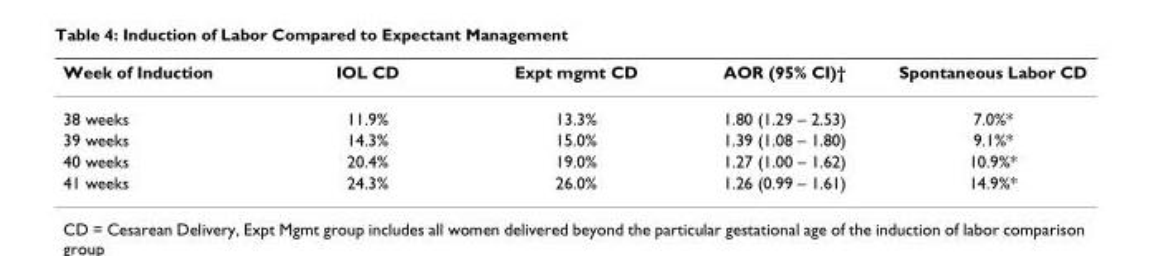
<table><thead><tr><td>Week of Induction</td><td>IOL CD</td><td>Expt mgmt CD</td><td>AOR (95% CI)†</td><td>Spontaneous Labor CD</td></tr></thead><tbody><tr><td>38 weeks</td><td>11.9%</td><td>13.3%</td><td>1.80 (1.29 – 2.53)</td><td>7.0%*</td></tr><tr><td>39 weeks</td><td>14.3%</td><td>15.0%</td><td>1.39 (1.08 – 1.80)</td><td>9.1%*</td></tr><tr><td>40 weeks</td><td>20.4%</td><td>19.0%</td><td>1.27 (1.00 – 1.62)</td><td>10.9%*</td></tr><tr><td>41 weeks</td><td>24.3%</td><td>26.0%</td><td>1.26 (0.99 – 1.61)</td><td>14.9%*</td></tr></tbody></table>